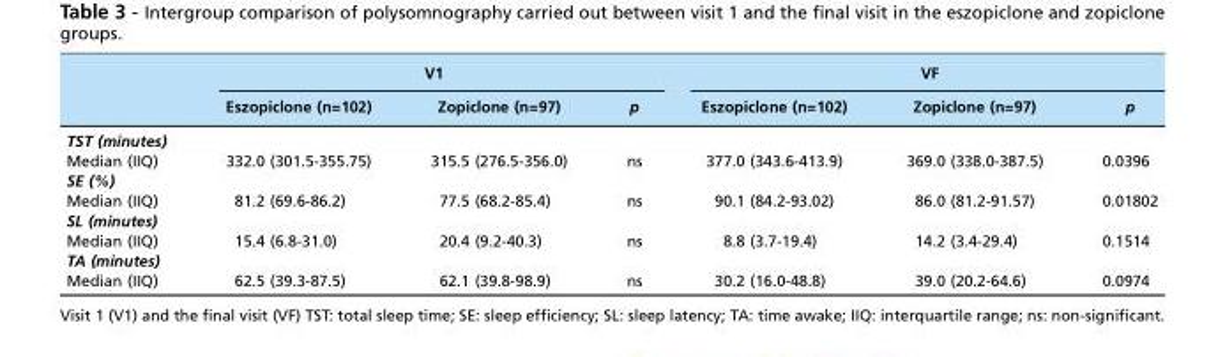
<table><thead><tr><td rowspan="2"></td><td colspan="3">V1</td><td colspan="3">VF</td></tr><tr><td>Eszopiclone (n=102)</td><td>Zopiclone (n=97)</td><td>p</td><td>Eszopiclone (n=102)</td><td>Zopiclone (n=97)</td><td>p</td></tr></thead><tbody><tr><td colspan="7">TST (minutes)</td></tr><tr><td>Median (IIQ)</td><td>332.0 (301.5-355.75)</td><td>315.5 (276.5-356.0)</td><td>ns</td><td>377.0 (343.6-413.9)</td><td>369.0 (338.0-387.5)</td><td>0.0396</td></tr><tr><td colspan="7">SE (%)</td></tr><tr><td>Median (IIQ)</td><td>81.2 (69.6-86.2)</td><td>77.5 (68.2-85.4)</td><td>ns</td><td>90.1 (84.2-93.02)</td><td>86.0 (81.2-91.57)</td><td>0.01802</td></tr><tr><td colspan="7">SL (minutes)</td></tr><tr><td>Median (IIQ)</td><td>15.4 (6.8-31.0)</td><td>20.4 (9.2-40.3)</td><td>ns</td><td>8.8 (3.7-19.4)</td><td>14.2 (3.4-29.4)</td><td>0.1514</td></tr><tr><td colspan="7">TA (minutes)</td></tr><tr><td>Median (IIQ)</td><td>62.5 (39.3-87.5)</td><td>62.1 (39.8-98.9)</td><td>ns</td><td>30.2 (16.0-48.8)</td><td>39.0 (20.2-64.6)</td><td>0.0974</td></tr></tbody></table>